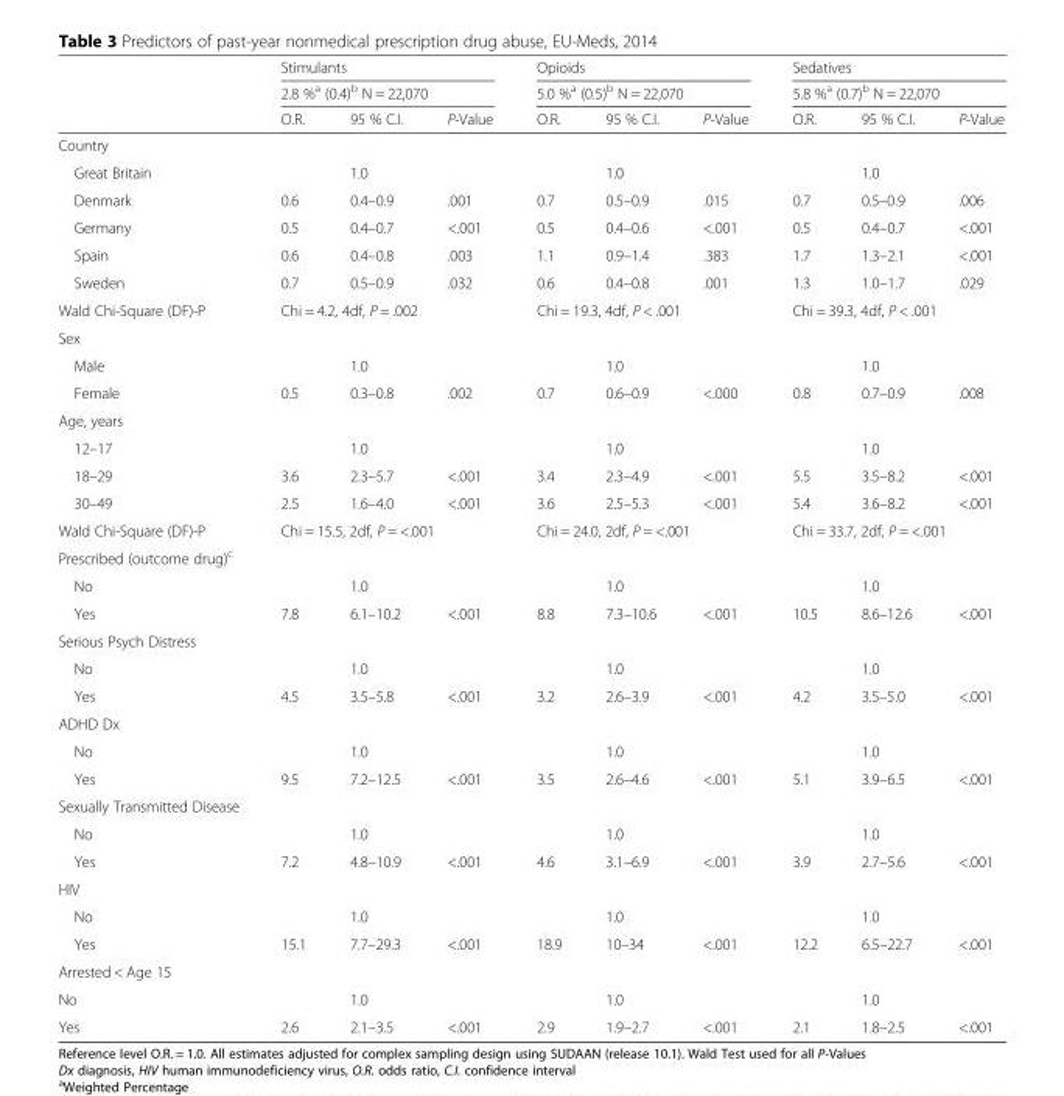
<table><thead><tr><td rowspan="3"></td><td rowspan="2" colspan="3">Stimulants 2.8 %<sup>a</sup> (0.4)<sup>b</sup> N = 22,070</td><td rowspan="2" colspan="3">Opioids 5.0 %<sup>a</sup> (0.5)<sup>b</sup> N = 22,070</td><td rowspan="2" colspan="3">Sedatives 5.8 %<sup>a</sup> (0.7)<sup>b</sup> N = 22,070</td></tr><tr></tr><tr><td>O.R.</td><td>95 % C.I.</td><td>P-Value</td><td>O.R.</td><td>95 % C.I.</td><td>P-Value</td><td>O.R.</td><td>95 % C.I.</td><td>P-Value</td></tr></thead><tbody><tr><td colspan="10">Country</td></tr><tr><td>Great Britain</td><td></td><td>1.0</td><td></td><td></td><td>1.0</td><td></td><td></td><td>1.0</td><td></td></tr><tr><td>Denmark</td><td>0.6</td><td>0.4–0.9</td><td>.001</td><td>0.7</td><td>0.5–0.9</td><td>.015</td><td>0.7</td><td>0.5–0.9</td><td>.006</td></tr><tr><td>Germany</td><td>0.5</td><td>0.4–0.7</td><td>&lt;.001</td><td>0.5</td><td>0.4–0.6</td><td>&lt;.001</td><td>0.5</td><td>0.4–0.7</td><td>&lt;.001</td></tr><tr><td>Spain</td><td>0.6</td><td>0.4–0.8</td><td>.003</td><td>1.1</td><td>0.9–1.4</td><td>.383</td><td>1.7</td><td>1.3–2.1</td><td>&lt;.001</td></tr><tr><td>Sweden</td><td>0.7</td><td>0.5–0.9</td><td>.032</td><td>0.6</td><td>0.4–0.8</td><td>.001</td><td>1.3</td><td>1.0–1.7</td><td>.029</td></tr><tr><td>Wald Chi-Square (DF)-P</td><td colspan="3">Chi = 4.2, 4df, P = .002</td><td colspan="3">Chi = 19.3, 4df, P &lt; .001</td><td colspan="3">Chi = 39.3, 4df, P &lt; .001</td></tr><tr><td colspan="10">Sex</td></tr><tr><td>Male</td><td></td><td>1.0</td><td></td><td></td><td>1.0</td><td></td><td></td><td>1.0</td><td></td></tr><tr><td>Female</td><td>0.5</td><td>0.3–0.8</td><td>.002</td><td>0.7</td><td>0.6–0.9</td><td>&lt;.000</td><td>0.8</td><td>0.7–0.9</td><td>.008</td></tr><tr><td colspan="10">Age, years</td></tr><tr><td>12–17</td><td></td><td>1.0</td><td></td><td></td><td>1.0</td><td></td><td></td><td>1.0</td><td></td></tr><tr><td>18–29</td><td>3.6</td><td>2.3–5.7</td><td>&lt;.001</td><td>3.4</td><td>2.3–4.9</td><td>&lt;.001</td><td>5.5</td><td>3.5–8.2</td><td>&lt;.001</td></tr><tr><td>30–49</td><td>2.5</td><td>1.6–4.0</td><td>&lt;.001</td><td>3.6</td><td>2.5–5.3</td><td>&lt;.001</td><td>5.4</td><td>3.6–8.2</td><td>&lt;.001</td></tr><tr><td>Wald Chi-Square (DF)-P</td><td colspan="3">Chi = 15.5, 2df, P = &lt;.001</td><td colspan="3">Chi = 24.0, 2df, P = &lt;.001</td><td colspan="3">Chi = 33.7, 2df, P = &lt;.001</td></tr><tr><td colspan="10">Prescribed (outcome drug)<sup>c</sup></td></tr><tr><td>No</td><td></td><td>1.0</td><td></td><td></td><td>1.0</td><td></td><td></td><td>1.0</td><td></td></tr><tr><td>Yes</td><td>7.8</td><td>6.1–10.2</td><td>&lt;.001</td><td>8.8</td><td>7.3–10.6</td><td>&lt;.001</td><td>10.5</td><td>8.6–12.6</td><td>&lt;.001</td></tr><tr><td colspan="10">Serious Psych Distress</td></tr><tr><td>No</td><td></td><td>1.0</td><td></td><td></td><td>1.0</td><td></td><td></td><td>1.0</td><td></td></tr><tr><td>Yes</td><td>4.5</td><td>3.5–5.8</td><td>&lt;.001</td><td>3.2</td><td>2.6–3.9</td><td>&lt;.001</td><td>4.2</td><td>3.5–5.0</td><td>&lt;.001</td></tr><tr><td colspan="10">ADHD Dx</td></tr><tr><td>No</td><td></td><td>1.0</td><td></td><td></td><td>1.0</td><td></td><td></td><td>1.0</td><td></td></tr><tr><td>Yes</td><td>9.5</td><td>7.2–12.5</td><td>&lt;.001</td><td>3.5</td><td>2.6–4.6</td><td>&lt;.001</td><td>5.1</td><td>3.9–6.5</td><td>&lt;.001</td></tr><tr><td colspan="10">Sexually Transmitted Disease</td></tr><tr><td>No</td><td></td><td>1.0</td><td></td><td></td><td>1.0</td><td></td><td></td><td>1.0</td><td></td></tr><tr><td>Yes</td><td>7.2</td><td>4.8–10.9</td><td>&lt;.001</td><td>4.6</td><td>3.1–6.9</td><td>&lt;.001</td><td>3.9</td><td>2.7–5.6</td><td>&lt;.001</td></tr><tr><td colspan="10">HIV</td></tr><tr><td>No</td><td></td><td>1.0</td><td></td><td></td><td>1.0</td><td></td><td></td><td>1.0</td><td></td></tr><tr><td>Yes</td><td>15.1</td><td>7.7–29.3</td><td>&lt;.001</td><td>18.9</td><td>10–34</td><td>&lt;.001</td><td>12.2</td><td>6.5–22.7</td><td>&lt;.001</td></tr><tr><td colspan="10">Arrested &lt; Age 15</td></tr><tr><td>No</td><td></td><td>1.0</td><td></td><td></td><td>1.0</td><td></td><td></td><td>1.0</td><td></td></tr><tr><td>Yes</td><td>2.6</td><td>2.1–3.5</td><td>&lt;.001</td><td>2.9</td><td>1.9–2.7</td><td>&lt;.001</td><td>2.1</td><td>1.8–2.5</td><td>&lt;.001</td></tr></tbody></table>